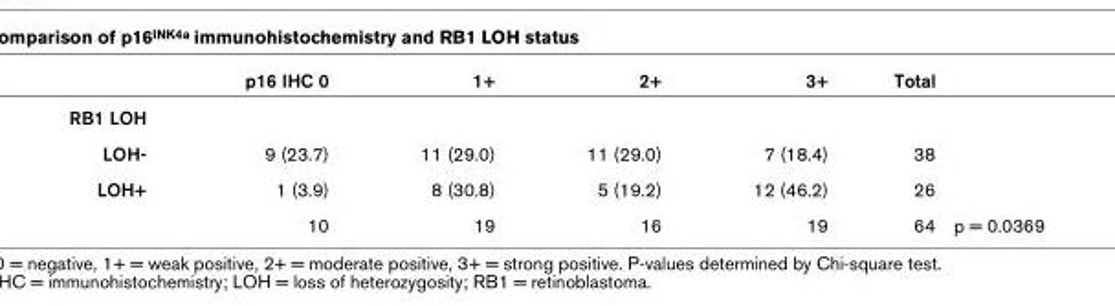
<table><thead><tr><td></td><td>p16 IHC 0</td><td>1+</td><td>2+</td><td>3+</td><td>Total</td><td></td></tr></thead><tbody><tr><td colspan="7">RB1 LOH</td></tr><tr><td>LOH-</td><td>9 (23.7)</td><td>11 (29.0)</td><td>11 (29.0)</td><td>7 (18.4)</td><td>38</td><td></td></tr><tr><td rowspan="2">LOH+</td><td>1 (3.9)</td><td>8 (30.8)</td><td>5 (19.2)</td><td>12 (46.2)</td><td>26</td><td></td></tr><tr><td>10</td><td>19</td><td>16</td><td>19</td><td>64</td><td>p = 0.0369</td></tr></tbody></table>